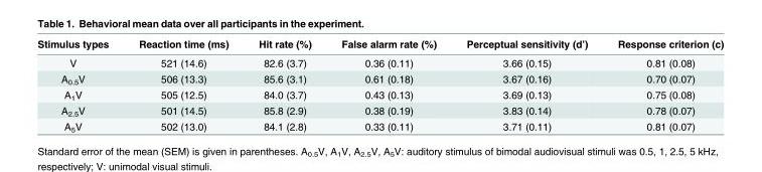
<table><thead><tr><td>Stimulus types</td><td>Reaction time (ms)</td><td>Hit rate (%)</td><td>False alarm rate (%)</td><td>Perceptual sensitivity (d’)</td><td>Response criterion (c)</td></tr></thead><tbody><tr><td>V</td><td>521 (14.6)</td><td>82.6 (3.7)</td><td>0.36 (0.11)</td><td>3.66 (0.15)</td><td>0.81 (0.08)</td></tr><tr><td>A<sub>0.5</sub>V</td><td>506 (13.3)</td><td>85.6 (3.1)</td><td>0.61 (0.18)</td><td>3.67 (0.16)</td><td>0.70 (0.07)</td></tr><tr><td>A<sub>1</sub>V</td><td>505 (12.5)</td><td>84.0 (3.7)</td><td>0.43 (0.13)</td><td>3.69 (0.13)</td><td>0.75 (0.08)</td></tr><tr><td>A<sub>2.5</sub>V</td><td>501 (14.5)</td><td>85.8 (2.9)</td><td>0.38 (0.19)</td><td>3.83 (0.14)</td><td>0.78 (0.07)</td></tr><tr><td>A<sub>5</sub>V</td><td>502 (13.0)</td><td>84.1 (2.8)</td><td>0.33 (0.11)</td><td>3.71 (0.11)</td><td>0.81 (0.07)</td></tr></tbody></table>